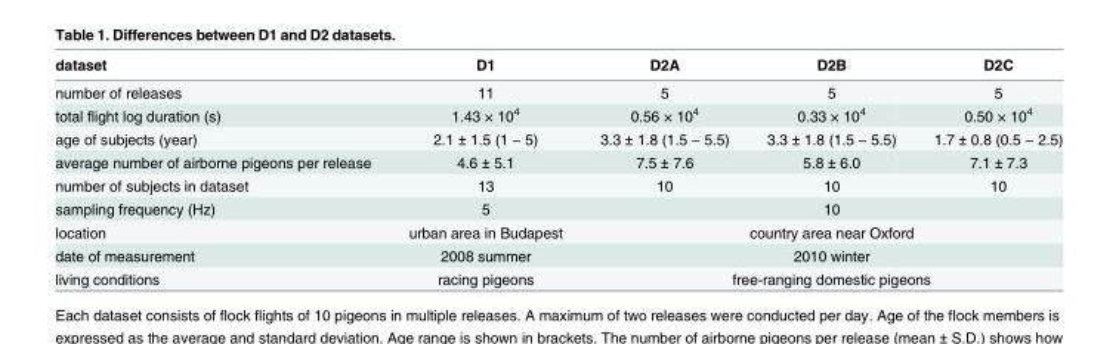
<table><thead><tr><td>dataset</td><td>D1</td><td>D2A</td><td>D2B</td><td>D2C</td></tr></thead><tbody><tr><td>number of releases</td><td>11</td><td>5</td><td>5</td><td>5</td></tr><tr><td>total flight log duration (s)</td><td>1.43 × 10<sup>4</sup></td><td>0.56 × 10<sup>4</sup></td><td>0.33 × 10<sup>4</sup></td><td>0.50 × 10<sup>4</sup></td></tr><tr><td>age of subjects (year)</td><td>2.1 ± 1.5 (1 − 5)</td><td>3.3 ± 1.8 (1.5 − 5.5)</td><td>3.3 ± 1.8 (1.5 − 5.5)</td><td>1.7 ± 0.8 (0.5 − 2.5)</td></tr><tr><td>average number of airborne pigeons per release</td><td>4.6 ± 5.1</td><td>7.5 ± 7.6</td><td>5.8 ± 6.0</td><td>7.1 ± 7.3</td></tr><tr><td>number of subjects in dataset</td><td>13</td><td>10</td><td>10</td><td>10</td></tr><tr><td>sampling frequency (Hz)</td><td>5</td><td colspan="3">10</td></tr><tr><td>location</td><td>urban area in Budapest</td><td colspan="3">country area near Oxford</td></tr><tr><td>date of measurement</td><td>2008 summer</td><td colspan="3">2010 winter</td></tr><tr><td>living conditions</td><td>racing pigeons</td><td colspan="3">free-ranging domestic pigeons</td></tr></tbody></table>